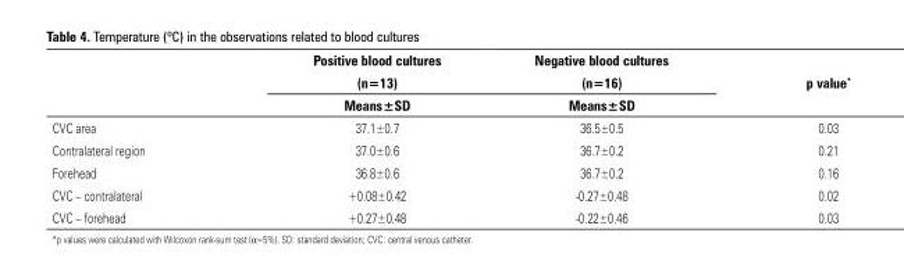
<table><thead><tr><td rowspan="3"></td><td rowspan="3">Positive blood cultures (n=13) Means±SD</td><td rowspan="3">negative blood cultures (n=16) Means±SD</td><td rowspan="3">p value*</td></tr><tr></tr><tr></tr></thead><tbody><tr><td>CVC area</td><td>37.1±0.7</td><td>36.5±0.5</td><td>0.03</td></tr><tr><td>Contralateral region</td><td>37.0±0.6</td><td>36.7±0.2</td><td>0.21</td></tr><tr><td>Forehead</td><td>36.8±0.6</td><td>36.7±0.2</td><td>0.16</td></tr><tr><td>CVC – contralateral</td><td>+0.08±0.42</td><td>-0.27±0.48</td><td>0.02</td></tr><tr><td>CVC – forehead</td><td>+0.27±0.48</td><td>-0.22±0.46</td><td>0.03</td></tr></tbody></table>